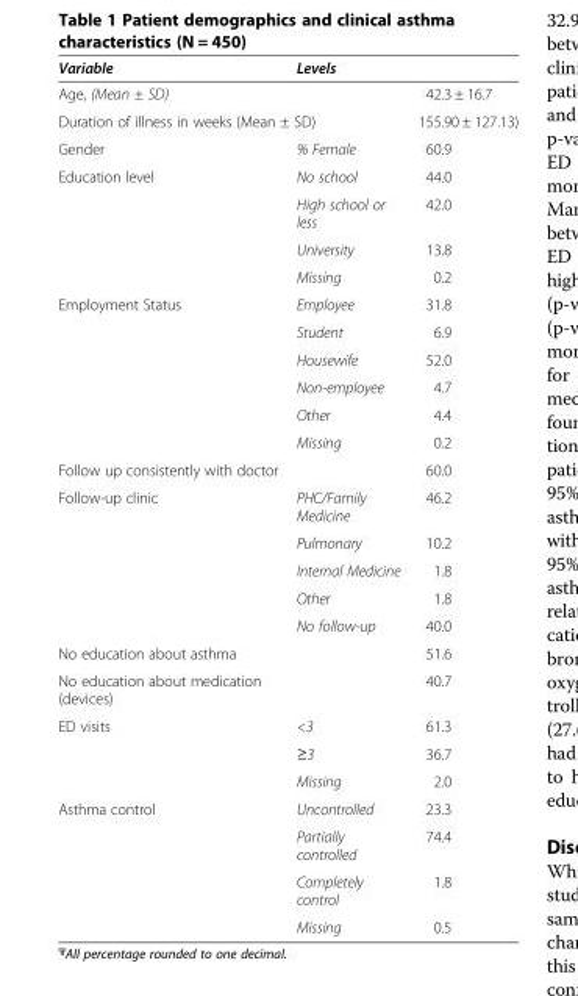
<table><thead><tr><td>Variable</td><td>Levels</td><td></td></tr></thead><tbody><tr><td>Age, (Mean ± SD)</td><td></td><td>42.3 ± 16.7</td></tr><tr><td colspan="2">Duration of illness in weeks (Mean ± SD)</td><td>155.90 ± 127.13)</td></tr><tr><td>Gender</td><td>% Female</td><td>60.9</td></tr><tr><td rowspan="4">Education level</td><td>No school</td><td>44.0</td></tr><tr><td>High school or less</td><td>42.0</td></tr><tr><td>University</td><td>13.8</td></tr><tr><td>Missing</td><td>0.2</td></tr><tr><td rowspan="6">Employment Status</td><td>Employee</td><td>31.8</td></tr><tr><td>Student</td><td>6.9</td></tr><tr><td>Housewife</td><td>52.0</td></tr><tr><td>Non-employee</td><td>4.7</td></tr><tr><td>Other</td><td>4.4</td></tr><tr><td>Missing</td><td>0.2</td></tr><tr><td>Follow up consistently with doctor</td><td></td><td>60.0</td></tr><tr><td rowspan="5">Follow-up clinic</td><td>PHC/Family Medicine</td><td>46.2</td></tr><tr><td>Pulmonary</td><td>10.2</td></tr><tr><td>Internal Medicine</td><td>1.8</td></tr><tr><td>Other</td><td>1.8</td></tr><tr><td>No follow-up</td><td>40.0</td></tr><tr><td>No education about asthma</td><td></td><td>51.6</td></tr><tr><td>No education about medication (devices)</td><td></td><td>40.7</td></tr><tr><td rowspan="3">ED visits</td><td>&lt;3</td><td>61.3</td></tr><tr><td>≥3</td><td>36.7</td></tr><tr><td>Missing</td><td>2.0</td></tr><tr><td rowspan="4">Asthma control</td><td>Uncontrolled</td><td>23.3</td></tr><tr><td>Partially controlled</td><td>74.4</td></tr><tr><td>Completely control</td><td>1.8</td></tr><tr><td>Missing</td><td>0.5</td></tr></tbody></table>